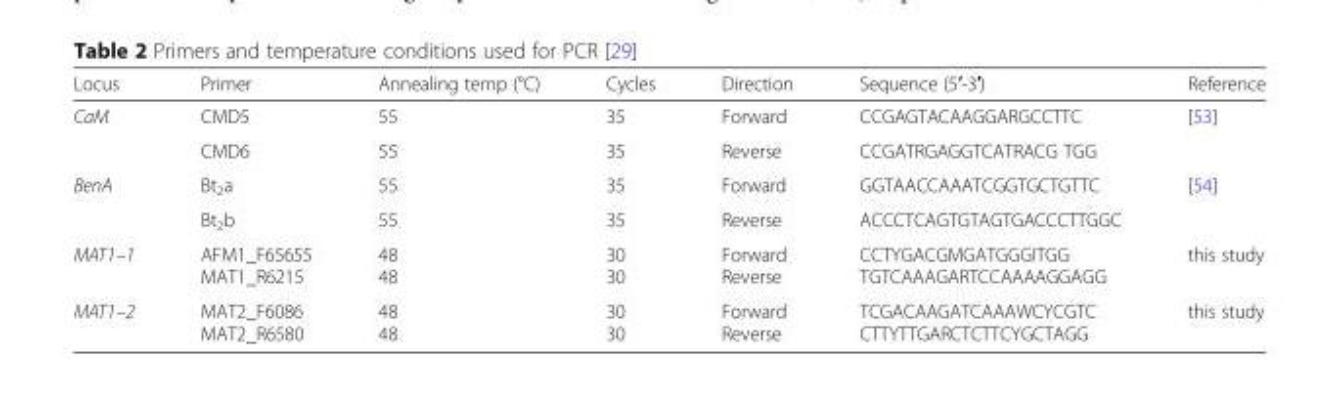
<table><thead><tr><td>Locus</td><td>Primer</td><td>Annealing temp (°C)</td><td>Cycles</td><td>Direction</td><td>Sequence (5′-3′)</td><td>Reference</td></tr></thead><tbody><tr><td rowspan="2">CaM</td><td>CMD5</td><td>55</td><td>35</td><td>Forward</td><td>CCGAGTACAAGGARGCCTTC</td><td>[53]</td></tr><tr><td>CMD6</td><td>55</td><td>35</td><td>Reverse</td><td>CCGATRGAGGTCATRACG TGG</td><td></td></tr><tr><td rowspan="2">BenA</td><td>Bt<sub>2</sub>a</td><td>55</td><td>35</td><td>Forward</td><td>GGTAACCAAATCGGTGCTGTTC</td><td>[54]</td></tr><tr><td>Bt<sub>2</sub>b</td><td>55</td><td>35</td><td>Reverse</td><td>ACCCTCAGTGTAGTGACCCTTGGC</td><td></td></tr><tr><td>MAT1–1</td><td>AFM1_F65655 MAT1_R6215</td><td>48 48</td><td>30 30</td><td>Forward Reverse</td><td>CCTYGACGMGATGGGITGG TGTCAAAGARTCCAAAAGGAGG</td><td>this study</td></tr><tr><td>MAT1–2</td><td>MAT2_F6086 MAT2_R6580</td><td>48 48</td><td>30 30</td><td>Forward Reverse</td><td>TCGACAAGATCAAAWCYCGTC CTTYTTGARCTCTTCYGCTAGG</td><td>this study</td></tr></tbody></table>